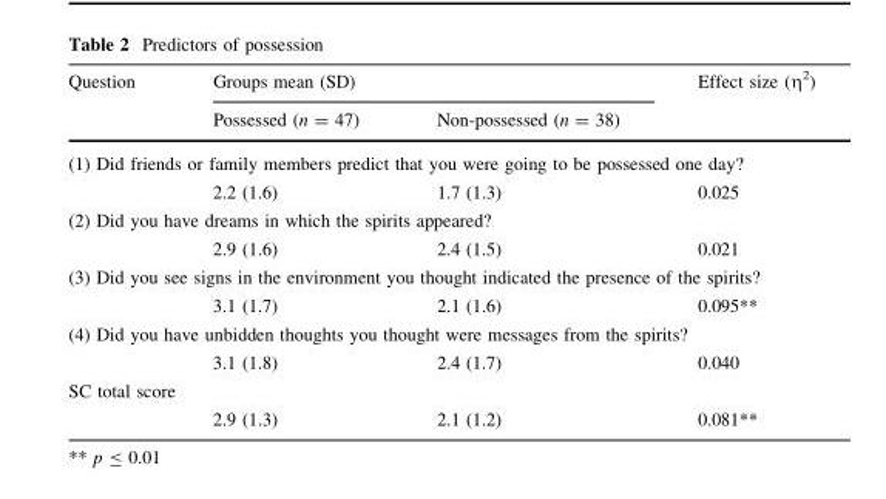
<table><thead><tr><td rowspan="2">Question</td><td colspan="2">Groups mean (SD)</td><td rowspan="2">Effect size (η<sup>2</sup>)</td></tr><tr><td>Possessed (n = 47)</td><td>Non-possessed (n = 38)</td></tr></thead><tbody><tr><td colspan="4">(1) Did friends or family members predict that you were going to be possessed one day?</td></tr><tr><td></td><td>2.2 (1.6)</td><td>1.7 (1.3)</td><td>0.025</td></tr><tr><td colspan="4">(2) Did you have dreams in which the spirits appeared?</td></tr><tr><td></td><td>2.9 (1.6)</td><td>2.4 (1.5)</td><td>0.021</td></tr><tr><td colspan="4">(3) Did you see signs in the environment you thought indicated the presence of the spirits?</td></tr><tr><td></td><td>3.1 (1.7)</td><td>2.1 (1.6)</td><td>0.095**</td></tr><tr><td colspan="4">(4) Did you have unbidden thoughts you thought were messages from the spirits?</td></tr><tr><td></td><td>3.1 (1.8)</td><td>2.4 (1.7)</td><td>0.040</td></tr><tr><td colspan="4">SC total score</td></tr><tr><td></td><td>2.9 (1.3)</td><td>2.1 (1.2)</td><td>0.081**</td></tr></tbody></table>